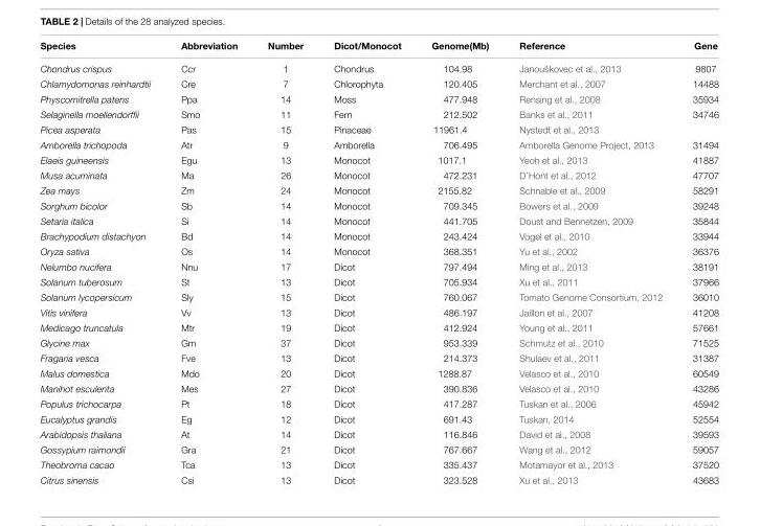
<table><thead><tr><td>Species</td><td>Abbreviation</td><td>Number</td><td>Dicot/Monocot</td><td>Genome(Mb)</td><td>Reference</td><td>Gene</td></tr></thead><tbody><tr><td>Chondrus crispus</td><td>Ccr</td><td>1</td><td>Chondrus</td><td>104.98</td><td>Janouškovec et al., 2013</td><td>9807</td></tr><tr><td>Chlamydomonas reinhardtii</td><td>Cre</td><td>7</td><td>Chlorophyta</td><td>120.405</td><td>Merchant et al., 2007</td><td>14488</td></tr><tr><td>Physcomitrella patens</td><td>Ppa</td><td>14</td><td>Moss</td><td>477.948</td><td>Rensing et al., 2008</td><td>35934</td></tr><tr><td>Selaginella moellendorffii</td><td>Smo</td><td>11</td><td>Fern</td><td>212.502</td><td>Banks et al., 2011</td><td>34746</td></tr><tr><td>Picea asperata</td><td>Pas</td><td>15</td><td>Pinaceae</td><td>11961.4</td><td>Nystedt et al., 2013</td><td></td></tr><tr><td>Amborella trichopoda</td><td>Atr</td><td>9</td><td>Amborella</td><td>706.495</td><td>Amborella Genome Project, 2013</td><td>31494</td></tr><tr><td>Elaeis guineensis</td><td>Egu</td><td>13</td><td>Monocot</td><td>1017.1</td><td>Yeoh et al., 2013</td><td>41887</td></tr><tr><td>Musa acuminata</td><td>Ma</td><td>26</td><td>Monocot</td><td>472.231</td><td>D’Hont et al., 2012</td><td>47707</td></tr><tr><td>Zea mays</td><td>Zm</td><td>24</td><td>Monocot</td><td>2155.82</td><td>Schnable et al., 2009</td><td>58291</td></tr><tr><td>Sorghum bicolor</td><td>Sb</td><td>14</td><td>Monocot</td><td>709.345</td><td>Bowers et al., 2009</td><td>39248</td></tr><tr><td>Setaria italica</td><td>Si</td><td>14</td><td>Monocot</td><td>441.705</td><td>Doust and Bennetzen, 2009</td><td>35844</td></tr><tr><td>Brachypodium distachyon</td><td>Bd</td><td>14</td><td>Monocot</td><td>243.424</td><td>Vogel et al., 2010</td><td>33944</td></tr><tr><td>Oryza sativa</td><td>Os</td><td>14</td><td>Monocot</td><td>368.351</td><td>Yu et al., 2002</td><td>36376</td></tr><tr><td>Nelumbo nucifera</td><td>Nnu</td><td>17</td><td>Dicot</td><td>797.494</td><td>Ming et al., 2013</td><td>38191</td></tr><tr><td>Solanum tuberosum</td><td>St</td><td>13</td><td>Dicot</td><td>705.934</td><td>Xu et al., 2011</td><td>37966</td></tr><tr><td>Solanum lycopersicum</td><td>Sly</td><td>15</td><td>Dicot</td><td>760.067</td><td>Tomato Genome Consortium, 2012</td><td>36010</td></tr><tr><td>Vitis vinifera</td><td>Vv</td><td>13</td><td>Dicot</td><td>486.197</td><td>Jaillon et al., 2007</td><td>41208</td></tr><tr><td>Medicago truncatula</td><td>Mtr</td><td>19</td><td>Dicot</td><td>412.924</td><td>Young et al., 2011</td><td>57661</td></tr><tr><td>Glycine max</td><td>Gm</td><td>37</td><td>Dicot</td><td>953.339</td><td>Schmutz et al., 2010</td><td>71525</td></tr><tr><td>Fragaria vesca</td><td>Fve</td><td>13</td><td>Dicot</td><td>214.373</td><td>Shulaev et al., 2011</td><td>31387</td></tr><tr><td>Malus domestica</td><td>Mdo</td><td>20</td><td>Dicot</td><td>1288.87</td><td>Velasco et al., 2010</td><td>60549</td></tr><tr><td>Manihot esculenta</td><td>Mes</td><td>27</td><td>Dicot</td><td>390.836</td><td>Velasco et al., 2010</td><td>43286</td></tr><tr><td>Populus trichocarpa</td><td>Pt</td><td>18</td><td>Dicot</td><td>417.287</td><td>Tuskan et al., 2006</td><td>45942</td></tr><tr><td>Eucalyptus grandis</td><td>Eg</td><td>12</td><td>Dicot</td><td>691.43</td><td>Tuskan, 2014</td><td>52554</td></tr><tr><td>Arabidopsis thaliana</td><td>At</td><td>14</td><td>Dicot</td><td>116.846</td><td>David et al., 2008</td><td>39593</td></tr><tr><td>Gossypium raimondii</td><td>Gra</td><td>21</td><td>Dicot</td><td>767.667</td><td>Wang et al., 2012</td><td>59057</td></tr><tr><td>Theobroma cacao</td><td>Tca</td><td>13</td><td>Dicot</td><td>335.437</td><td>Motamayor et al., 2013</td><td>37520</td></tr><tr><td>Citrus sinensis</td><td>Csi</td><td>13</td><td>Dicot</td><td>323.528</td><td>Xu et al., 2013</td><td>43683</td></tr></tbody></table>